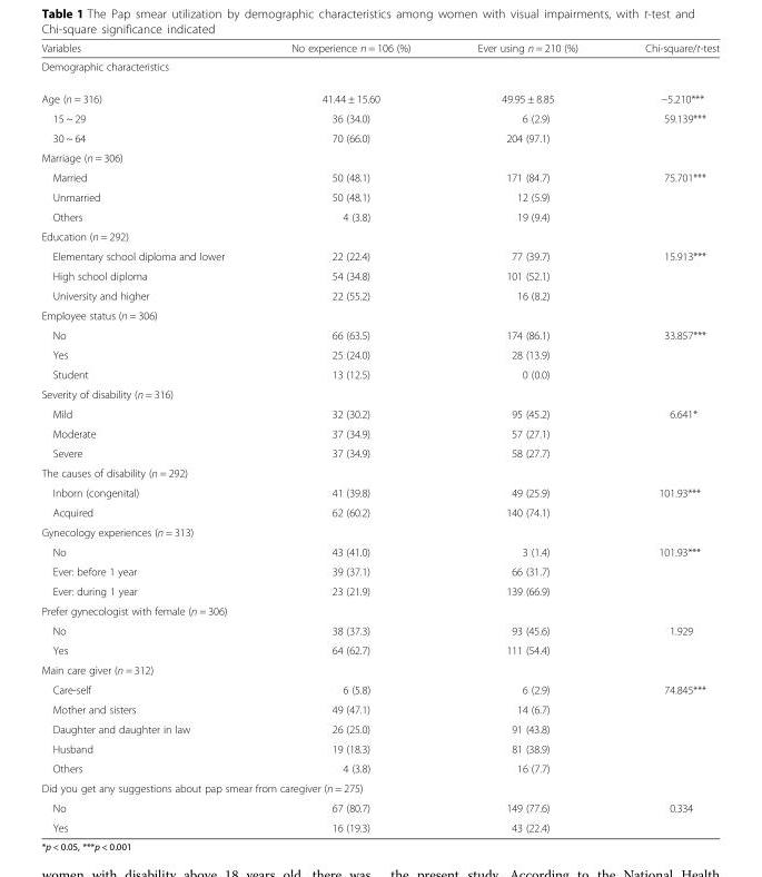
<table><thead><tr><td>Variables</td><td>No experience n = 106 (%)</td><td>Ever using n = 210 (%)</td><td>Chi-square/t-test</td></tr></thead><tbody><tr><td colspan="4">Demographic characteristics</td></tr><tr><td>Age (n = 316)</td><td>41.44 ± 15.60</td><td>49.95 ± 8.85</td><td>−5.210***</td></tr><tr><td>15 ~ 29</td><td>36 (34.0)</td><td>6 (2.9)</td><td>59.139***</td></tr><tr><td>30 ~ 64</td><td>70 (66.0)</td><td>204 (97.1)</td><td></td></tr><tr><td colspan="4">Marriage (n = 306)</td></tr><tr><td>Married</td><td>50 (48.1)</td><td>171 (84.7)</td><td>75.701***</td></tr><tr><td>Unmarried</td><td>50 (48.1)</td><td>12 (5.9)</td><td></td></tr><tr><td>Others</td><td>4 (3.8)</td><td>19 (9.4)</td><td></td></tr><tr><td colspan="4">Education (n = 292)</td></tr><tr><td>Elementary school diploma and lower</td><td>22 (22.4)</td><td>77 (39.7)</td><td>15.913***</td></tr><tr><td>High school diploma</td><td>54 (34.8)</td><td>101 (52.1)</td><td></td></tr><tr><td>University and higher</td><td>22 (55.2)</td><td>16 (8.2)</td><td></td></tr><tr><td colspan="4">Employee status (n = 306)</td></tr><tr><td>No</td><td>66 (63.5)</td><td>174 (86.1)</td><td>33.857***</td></tr><tr><td>Yes</td><td>25 (24.0)</td><td>28 (13.9)</td><td></td></tr><tr><td>Student</td><td>13 (12.5)</td><td>0 (0.0)</td><td></td></tr><tr><td colspan="4">Severity of disability (n = 316)</td></tr><tr><td>Mild</td><td>32 (30.2)</td><td>95 (45.2)</td><td>6.641*</td></tr><tr><td>Moderate</td><td>37 (34.9)</td><td>57 (27.1)</td><td></td></tr><tr><td>Severe</td><td>37 (34.9)</td><td>58 (27.7)</td><td></td></tr><tr><td colspan="4">The causes of disability (n = 292)</td></tr><tr><td>Inborn (congenital)</td><td>41 (39.8)</td><td>49 (25.9)</td><td>101.93***</td></tr><tr><td>Acquired</td><td>62 (60.2)</td><td>140 (74.1)</td><td></td></tr><tr><td colspan="4">Gynecology experiences (n = 313)</td></tr><tr><td>No</td><td>43 (41.0)</td><td>3 (1.4)</td><td>101.93***</td></tr><tr><td>Ever: before 1 year</td><td>39 (37.1)</td><td>66 (31.7)</td><td></td></tr><tr><td>Ever: during 1 year</td><td>23 (21.9)</td><td>139 (66.9)</td><td></td></tr><tr><td colspan="4">Prefer gynecologist with female (n = 306)</td></tr><tr><td>No</td><td>38 (37.3)</td><td>93 (45.6)</td><td>1.929</td></tr><tr><td>Yes</td><td>64 (62.7)</td><td>111 (54.4)</td><td></td></tr><tr><td colspan="4">Main care giver (n = 312)</td></tr><tr><td>Care-self</td><td>6 (5.8)</td><td>6 (2.9)</td><td>74.845***</td></tr><tr><td>Mother and sisters</td><td>49 (47.1)</td><td>14 (6.7)</td><td></td></tr><tr><td>Daughter and daughter in law</td><td>26 (25.0)</td><td>91 (43.8)</td><td></td></tr><tr><td>Husband</td><td>19 (18.3)</td><td>81 (38.9)</td><td></td></tr><tr><td>Others</td><td>4 (3.8)</td><td>16 (7.7)</td><td></td></tr><tr><td colspan="4">Did you get any suggestions about pap smear from caregiver (n = 275)</td></tr><tr><td>No</td><td>67 (80.7)</td><td>149 (77.6)</td><td>0.334</td></tr><tr><td>Yes</td><td>16 (19.3)</td><td>43 (22.4)</td><td></td></tr></tbody></table>